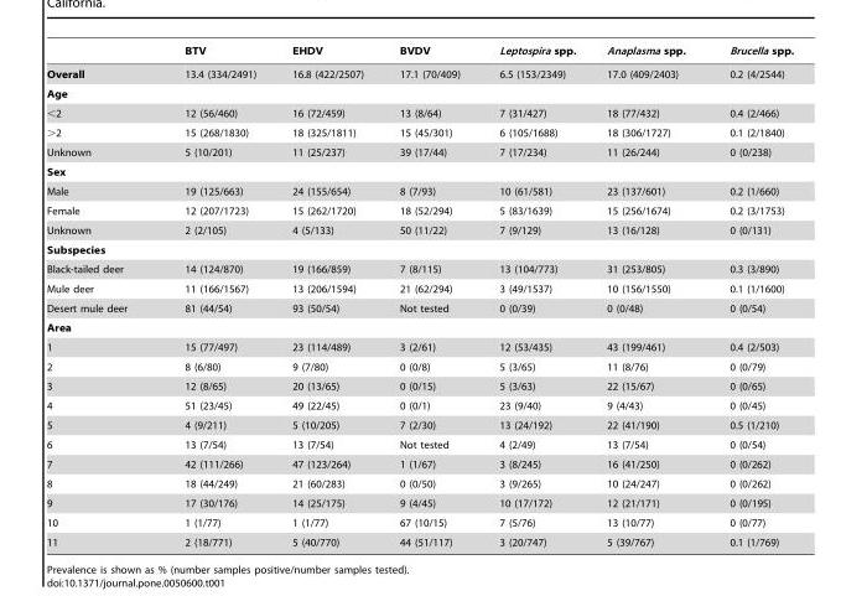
<table><thead><tr><td></td><td>BTV</td><td>EHDV</td><td>BVDV</td><td>Leptospira spp.</td><td>Anaplasma spp.</td><td>Brucella spp.</td></tr></thead><tbody><tr><td>Overall</td><td>13.4 (334/2491)</td><td>16.8 (422/2507)</td><td>17.1 (70/409)</td><td>6.5 (153/2349)</td><td>17.0 (409/2403)</td><td>0.2 (4/2544)</td></tr><tr><td colspan="7">Age</td></tr><tr><td>&lt;2</td><td>12 (56/460)</td><td>16 (72/459)</td><td>13 (8/64)</td><td>7 (31/427)</td><td>18 (77/432)</td><td>0.4 (2/466)</td></tr><tr><td>&gt;2</td><td>15 (268/1830)</td><td>18 (325/1811)</td><td>15 (45/301)</td><td>6 (105/1688)</td><td>18 (306/1727)</td><td>0.1 (2/1840)</td></tr><tr><td>Unknown</td><td>5 (10/201)</td><td>11 (25/237)</td><td>39 (17/44)</td><td>7 (17/234)</td><td>11 (26/244)</td><td>0 (0/238)</td></tr><tr><td colspan="7">Sex</td></tr><tr><td>Male</td><td>19 (125/663)</td><td>24 (155/654)</td><td>8 (7/93)</td><td>10 (61/581)</td><td>23 (137/601)</td><td>0.2 (1/660)</td></tr><tr><td>Female</td><td>12 (207/1723)</td><td>15 (262/1720)</td><td>18 (52/294)</td><td>5 (83/1639)</td><td>15 (256/1674)</td><td>0.2 (3/1753)</td></tr><tr><td>Unknown</td><td>2 (2/105)</td><td>4 (5/133)</td><td>50 (11/22)</td><td>7 (9/129)</td><td>13 (16/128)</td><td>0 (0/131)</td></tr><tr><td colspan="7">Subspecies</td></tr><tr><td>Black-tailed deer</td><td>14 (124/870)</td><td>19 (166/859)</td><td>7 (8/115)</td><td>13 (104/773)</td><td>31 (253/805)</td><td>0.3 (3/890)</td></tr><tr><td>Mule deer</td><td>11 (166/1567)</td><td>13 (206/1594)</td><td>21 (62/294)</td><td>3 (49/1537)</td><td>10 (156/1550)</td><td>0.1 (1/1600)</td></tr><tr><td>Desert mule deer</td><td>81 (44/54)</td><td>93 (50/54)</td><td>Not tested</td><td>0 (0/39)</td><td>0 (0/48)</td><td>0 (0/54)</td></tr><tr><td colspan="7">Area</td></tr><tr><td>1</td><td>15 (77/497)</td><td>23 (114/489)</td><td>3 (2/61)</td><td>12 (53/435)</td><td>43 (199/461)</td><td>0.4 (2/503)</td></tr><tr><td>2</td><td>8 (6/80)</td><td>9 (7/80)</td><td>0 (0/8)</td><td>5 (3/65)</td><td>11 (8/76)</td><td>0 (0/79)</td></tr><tr><td>3</td><td>12 (8/65)</td><td>20 (13/65)</td><td>0 (0/15)</td><td>5 (3/63)</td><td>22 (15/67)</td><td>0 (0/65)</td></tr><tr><td>4</td><td>51 (23/45)</td><td>49 (22/45)</td><td>0 (0/1)</td><td>23 (9/40)</td><td>9 (4/43)</td><td>0 (0/45)</td></tr><tr><td>5</td><td>4 (9/211)</td><td>5 (10/205)</td><td>7 (2/30)</td><td>13 (24/192)</td><td>22 (41/190)</td><td>0.5 (1/210)</td></tr><tr><td>6</td><td>13 (7/54)</td><td>13 (7/54)</td><td>Not tested</td><td>4 (2/49)</td><td>13 (7/54)</td><td>0 (0/54)</td></tr><tr><td>7</td><td>42 (111/266)</td><td>47 (123/264)</td><td>1 (1/67)</td><td>3 (8/245)</td><td>16 (41/250)</td><td>0 (0/262)</td></tr><tr><td>8</td><td>18 (44/249)</td><td>21 (60/283)</td><td>0 (0/50)</td><td>3 (9/265)</td><td>10 (24/247)</td><td>0 (0/262)</td></tr><tr><td>9</td><td>17 (30/176)</td><td>14 (25/175)</td><td>9 (4/45)</td><td>10 (17/172)</td><td>12 (21/171)</td><td>0 (0/195)</td></tr><tr><td>10</td><td>1 (1/77)</td><td>1 (1/77)</td><td>67 (10/15)</td><td>7 (5/76)</td><td>13 (10/77)</td><td>0 (0/77)</td></tr><tr><td>11</td><td>2 (18/771)</td><td>5 (40/770)</td><td>44 (51/117)</td><td>3 (20/747)</td><td>5 (39/767)</td><td>0.1 (1/769)</td></tr></tbody></table>